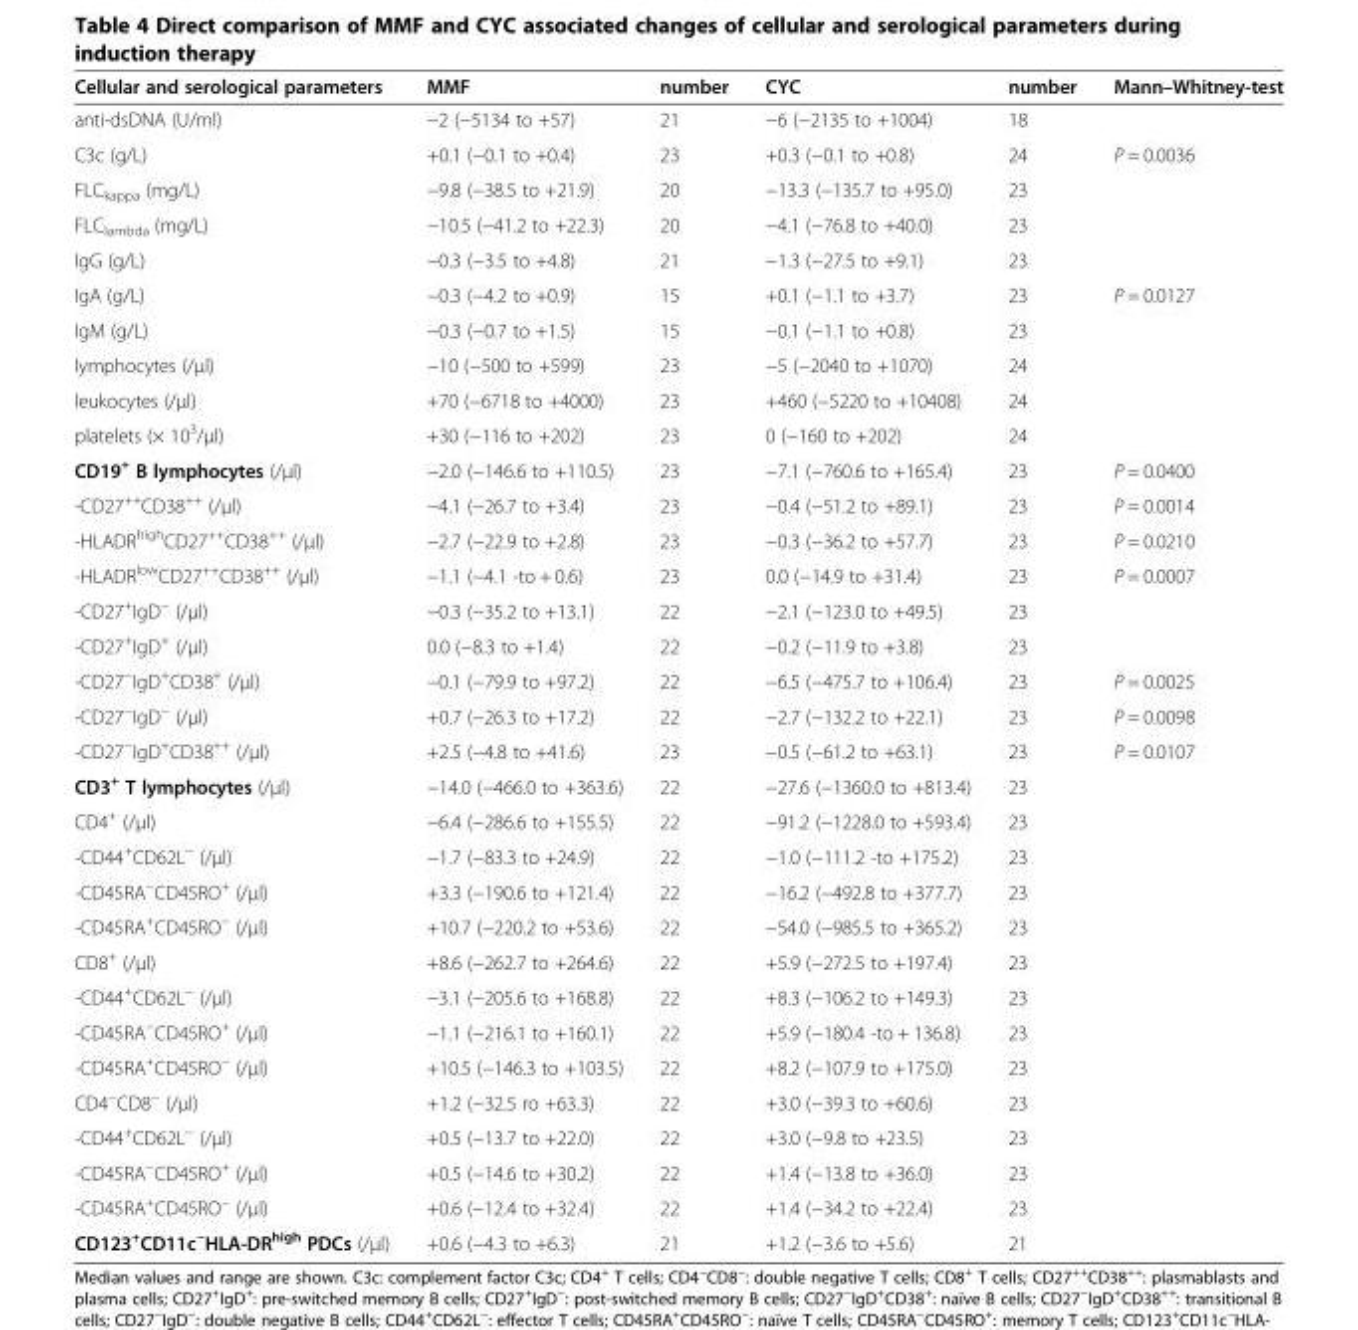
<table><thead><tr><td>Cellular and serological parameters</td><td>MMF</td><td>number</td><td>CYC</td><td>number</td><td>Mann–Whitney-test</td></tr></thead><tbody><tr><td>anti-dsDNA (U/ml)</td><td>−2 (−5134 to +57)</td><td>21</td><td>−6 (−2135 to +1004)</td><td>18</td><td></td></tr><tr><td>C3c (g/L)</td><td>+0.1 (−0.1 to +0.4)</td><td>23</td><td>+0.3 (−0.1 to +0.8)</td><td>24</td><td>P = 0.0036</td></tr><tr><td>FLC<sub>kappa</sub> (mg/L)</td><td>−9.8 (−38.5 to +21.9)</td><td>20</td><td>−13.3 (−135.7 to +95.0)</td><td>23</td><td></td></tr><tr><td>FLC<sub>lambda</sub> (mg/L)</td><td>−10.5 (−41.2 to +22.3)</td><td>20</td><td>−4.1 (−76.8 to +40.0)</td><td>23</td><td></td></tr><tr><td>IgG (g/L)</td><td>−0.3 (−3.5 to +4.8)</td><td>21</td><td>−1.3 (−27.5 to +9.1)</td><td>23</td><td></td></tr><tr><td>IgA (g/L)</td><td>−0.3 (−4.2 to +0.9)</td><td>15</td><td>+0.1 (−1.1 to +3.7)</td><td>23</td><td>P = 0.0127</td></tr><tr><td>IgM (g/L)</td><td>−0.3 (−0.7 to +1.5)</td><td>15</td><td>−0.1 (−1.1 to +0.8)</td><td>23</td><td></td></tr><tr><td>lymphocytes (/μl)</td><td>−10 (−500 to +599)</td><td>23</td><td>−5 (−2040 to +1070)</td><td>24</td><td></td></tr><tr><td>leukocytes (/μl)</td><td>+70 (−6718 to +4000)</td><td>23</td><td>+460 (−5220 to +10408)</td><td>24</td><td></td></tr><tr><td>platelets (× 10<sup>3</sup>/μl)</td><td>+30 (−116 to +202)</td><td>23</td><td>0 (−160 to +202)</td><td>24</td><td></td></tr><tr><td>CD19<sup>+</sup> B lymphocytes (/μl)</td><td>−2.0 (−146.6 to +110.5)</td><td>23</td><td>−7.1 (−760.6 to +165.4)</td><td>23</td><td>P = 0.0400</td></tr><tr><td>-CD27<sup>++</sup>CD38<sup>++</sup> (/μl)</td><td>−4.1 (−26.7 to +3.4)</td><td>23</td><td>−0.4 (−51.2 to +89.1)</td><td>23</td><td>P = 0.0014</td></tr><tr><td>-HLADR<sup>high</sup>CD27<sup>++</sup>CD38<sup>++</sup> (/μl)</td><td>−2.7 (−22.9 to +2.8)</td><td>23</td><td>−0.3 (−36.2 to +57.7)</td><td>23</td><td>P = 0.0210</td></tr><tr><td>-HLADR<sup>low</sup>CD27<sup>++</sup>CD38<sup>++</sup> (/μl)</td><td>−1.1 (−4.1 -to + 0.6)</td><td>23</td><td>0.0 (−14.9 to +31.4)</td><td>23</td><td>P = 0.0007</td></tr><tr><td>-CD27<sup>+</sup>IgD<sup>−</sup> (/μl)</td><td>−0.3 (−35.2 to +13.1)</td><td>22</td><td>−2.1 (−123.0 to +49.5)</td><td>23</td><td></td></tr><tr><td>-CD27<sup>+</sup>IgD<sup>+</sup> (/μl)</td><td>0.0 (−8.3 to +1.4)</td><td>22</td><td>−0.2 (−11.9 to +3.8)</td><td>23</td><td></td></tr><tr><td>-CD27<sup>−</sup>IgD<sup>+</sup>CD38<sup>+</sup> (/μl)</td><td>−0.1 (−79.9 to +97.2)</td><td>22</td><td>−6.5 (−475.7 to +106.4)</td><td>23</td><td>P = 0.0025</td></tr><tr><td>-CD27<sup>−</sup>IgD<sup>−</sup> (/μl)</td><td>+0.7 (−26.3 to +17.2)</td><td>22</td><td>−2.7 (−132.2 to +22.1)</td><td>23</td><td>P = 0.0098</td></tr><tr><td>-CD27<sup>−</sup>IgD<sup>+</sup>CD38<sup>++</sup> (/μl)</td><td>+2.5 (−4.8 to +41.6)</td><td>23</td><td>−0.5 (−61.2 to +63.1)</td><td>23</td><td>P = 0.0107</td></tr><tr><td>CD3<sup>+</sup> T lymphocytes (/μl)</td><td>−14.0 (−466.0 to +363.6)</td><td>22</td><td>−27.6 (−1360.0 to +813.4)</td><td>23</td><td></td></tr><tr><td>CD4<sup>+</sup> (/μl)</td><td>−6.4 (−286.6 to +155.5)</td><td>22</td><td>−91.2 (−1228.0 to +593.4)</td><td>23</td><td></td></tr><tr><td>-CD44<sup>+</sup>CD62L<sup>−</sup> (/μl)</td><td>−1.7 (−83.3 to +24.9)</td><td>22</td><td>−1.0 (−111.2 -to +175.2)</td><td>23</td><td></td></tr><tr><td>-CD45RA<sup>−</sup>CD45RO<sup>+</sup> (/μl)</td><td>+3.3 (−190.6 to +121.4)</td><td>22</td><td>−16.2 (−492.8 to +377.7)</td><td>23</td><td></td></tr><tr><td>-CD45RA<sup>+</sup>CD45RO<sup>−</sup> (/μl)</td><td>+10.7 (−220.2 to +53.6)</td><td>22</td><td>−54.0 (−985.5 to +365.2)</td><td>23</td><td></td></tr><tr><td>CD8<sup>+</sup> (/μl)</td><td>+8.6 (−262.7 to +264.6)</td><td>22</td><td>+5.9 (−272.5 to +197.4)</td><td>23</td><td></td></tr><tr><td>-CD44<sup>+</sup>CD62L<sup>−</sup> (/μl)</td><td>−3.1 (−205.6 to +168.8)</td><td>22</td><td>+8.3 (−106.2 to +149.3)</td><td>23</td><td></td></tr><tr><td>-CD45RA<sup>−</sup>CD45RO<sup>+</sup> (/μl)</td><td>−1.1 (−216.1 to +160.1)</td><td>22</td><td>+5.9 (−180.4 -to + 136.8)</td><td>23</td><td></td></tr><tr><td>-CD45RA<sup>+</sup>CD45RO<sup>−</sup> (/μl)</td><td>+10.5 (−146.3 to +103.5)</td><td>22</td><td>+8.2 (−107.9 to +175.0)</td><td>23</td><td></td></tr><tr><td>CD4<sup>−</sup>CD8<sup>−</sup> (/μl)</td><td>+1.2 (−32.5 ro +63.3)</td><td>22</td><td>+3.0 (−39.3 to +60.6)</td><td>23</td><td></td></tr><tr><td>-CD44<sup>+</sup>CD62L<sup>−</sup> (/μl)</td><td>+0.5 (−13.7 to +22.0)</td><td>22</td><td>+3.0 (−9.8 to +23.5)</td><td>23</td><td></td></tr><tr><td>-CD45RA<sup>−</sup>CD45RO<sup>+</sup> (/μl)</td><td>+0.5 (−14.6 to +30.2)</td><td>22</td><td>+1.4 (−13.8 to +36.0)</td><td>23</td><td></td></tr><tr><td>-CD45RA<sup>+</sup>CD45RO<sup>−</sup> (/μl)</td><td>+0.6 (−12.4 to +32.4)</td><td>22</td><td>+1.4 (−34.2 to +22.4)</td><td>23</td><td></td></tr><tr><td>CD123<sup>+</sup>CD11c<sup>−</sup>HLA-DR<sup>high</sup> PDCs (/μl)</td><td>+0.6 (−4.3 to +6.3)</td><td>21</td><td>+1.2 (−3.6 to +5.6)</td><td>21</td><td></td></tr></tbody></table>